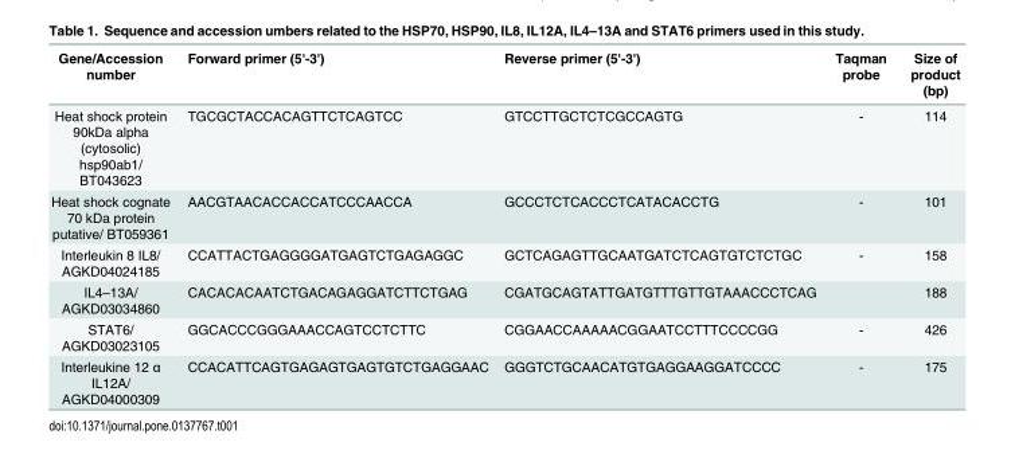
<table><thead><tr><td>Gene/Accession number</td><td>Forward primer (5&#x27;-3&#x27;)</td><td>Reverse primer (5&#x27;-3&#x27;)</td><td>Taqman probe</td><td>Size of product (bp)</td></tr></thead><tbody><tr><td>Heat shock protein 90kDa alpha (cytosolic) hsp90ab1/ BT043623</td><td>TGCGCTACCACAGTTCTCAGTCC</td><td>GTCCTTGCTCTCGCCAGTG</td><td>-</td><td>114</td></tr><tr><td>Heat shock cognate 70 kDa protein putative/ BT059361</td><td>AACGTAACACCACCATCCCAACCA</td><td>GCCCTCTCACCCTCATACACCTG</td><td>-</td><td>101</td></tr><tr><td>Interleukin 8 IL8/ AGKD04024185</td><td>CCATTACTGAGGGGATGAGTCTGAGAGGC</td><td>GCTCAGAGTTGCAATGATCTCAGTGTCTCTGC</td><td>-</td><td>158</td></tr><tr><td>IL4–13A/ AGKD03034860</td><td>CACACACAATCTGACAGAGGATCTTCTGAG</td><td>CGATGCAGTATTGATGTTTGTTGTAAACCCTCAG</td><td></td><td>188</td></tr><tr><td>STAT6/ AGKD03023105</td><td>GGCACCCGGGAAACCAGTCCTCTTC</td><td>CGGAACCAAAAACGGAATCCTTTCCCCGG</td><td>-</td><td>426</td></tr><tr><td>Interleukine 12 α IL12A/ AGKD04000309</td><td>CCACATTCAGTGAGAGTGAGTGTCTGAGGAAC</td><td>GGGTCTGCAACATGTGAGGAAGGATCCCC</td><td>-</td><td>175</td></tr></tbody></table>